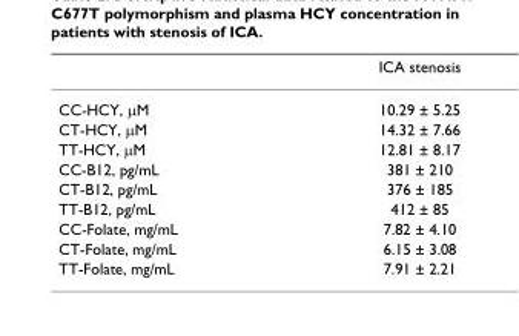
<table><thead><tr><td></td><td>ICA stenosis</td></tr></thead><tbody><tr><td>CC-HCY, μM</td><td>10.29 ± 5.25</td></tr><tr><td>CT-HCY, μM</td><td>14.32 ± 7.66</td></tr><tr><td>TT-HCY, μM</td><td>12.81 ± 8.17</td></tr><tr><td>CC-B12, pg/mL</td><td>381 ± 210</td></tr><tr><td>CT-B12, pg/mL</td><td>376 ± 185</td></tr><tr><td>TT-B12, pg/mL</td><td>412 ± 85</td></tr><tr><td>CC-Folate, mg/mL</td><td>7.82 ± 4.10</td></tr><tr><td>CT-Folate, mg/mL</td><td>6.15 ± 3.08</td></tr><tr><td>TT-Folate, mg/mL</td><td>7.91 ± 2.21</td></tr></tbody></table>